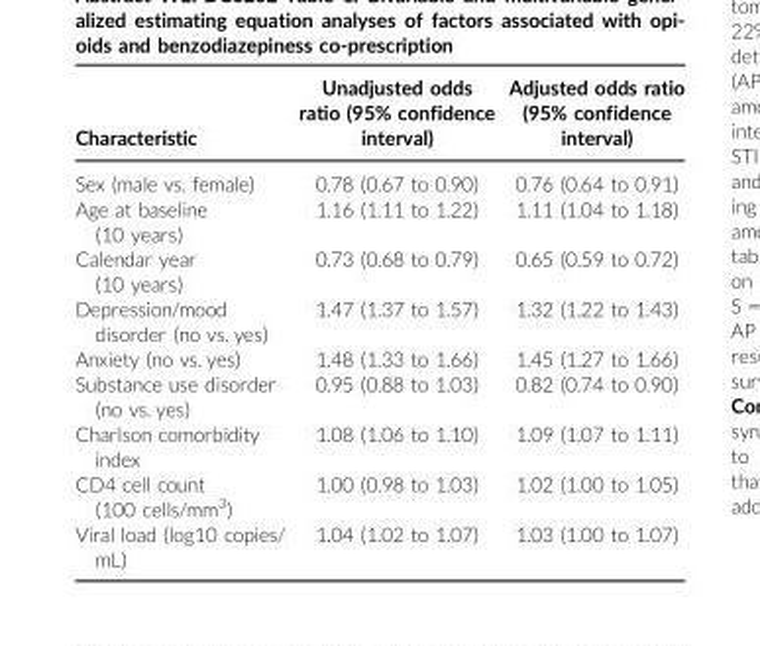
<table><thead><tr><td>Characteristic</td><td>Unadjusted odds ratio (95% confidence interval)</td><td>Adjusted odds ratio (95% confidence interval)</td></tr></thead><tbody><tr><td>Sex (male vs. female)</td><td>0.78 (0.67 to 0.90)</td><td>0.76 (0.64 to 0.91)</td></tr><tr><td>Age at baseline (10 years)</td><td>1.16 (1.11 to 1.22)</td><td>1.11 (1.04 to 1.18)</td></tr><tr><td>Calendar year (10 years)</td><td>0.73 (0.68 to 0.79)</td><td>0.65 (0.59 to 0.72)</td></tr><tr><td>Depression/mood disorder (no vs. yes)</td><td>1.47 (1.37 to 1.57)</td><td>1.32 (1.22 to 1.43)</td></tr><tr><td>Anxiety (no vs. yes)</td><td>1.48 (1.33 to 1.66)</td><td>1.45 (1.27 to 1.66)</td></tr><tr><td>Substance use disorder (no vs. yes)</td><td>0.95 (0.88 to 1.03)</td><td>0.82 (0.74 to 0.90)</td></tr><tr><td>Charlson comorbidity index</td><td>1.08 (1.06 to 1.10)</td><td>1.09 (1.07 to 1.11)</td></tr><tr><td>CD4 cell count (100 cells/mm<sup>3</sup>)</td><td>1.00 (0.98 to 1.03)</td><td>1.02 (1.00 to 1.05)</td></tr><tr><td>Viral load (log10 copies/ mL)</td><td>1.04 (1.02 to 1.07)</td><td>1.03 (1.00 to 1.07)</td></tr></tbody></table>